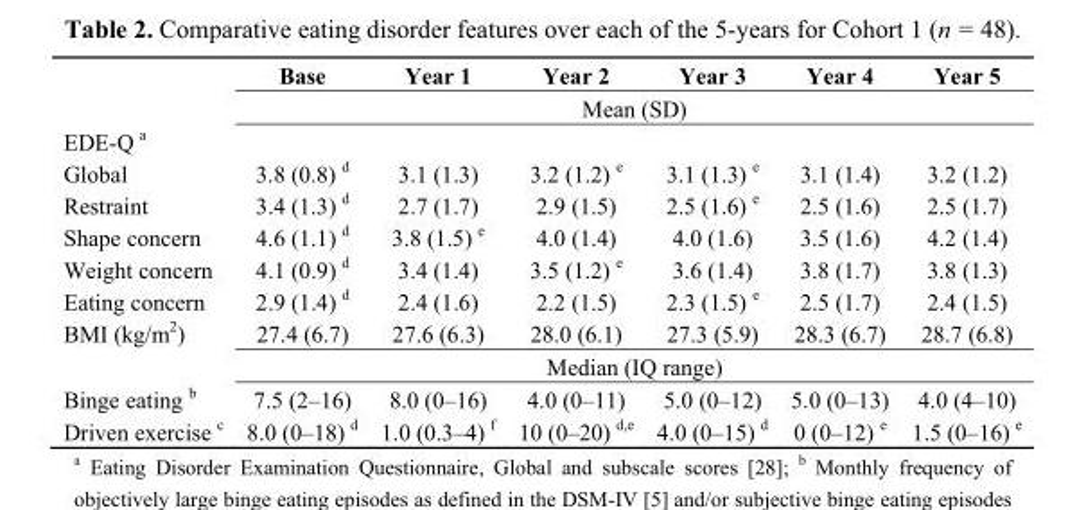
<table><thead><tr><td></td><td>Base</td><td>Year 1</td><td>Year 2</td><td>Year 3</td><td>Year 4</td><td>Year 5</td></tr></thead><tbody><tr><td></td><td colspan="6">Mean (SD)</td></tr><tr><td colspan="7">EDE-Q <sup>a</sup></td></tr><tr><td>Global</td><td>3.8 (0.8) <sup>d</sup></td><td>3.1 (1.3)</td><td>3.2 (1.2) <sup>e</sup></td><td>3.1 (1.3) <sup>e</sup></td><td>3.1 (1.4)</td><td>3.2 (1.2)</td></tr><tr><td>Restraint</td><td>3.4 (1.3) <sup>d</sup></td><td>2.7 (1.7)</td><td>2.9 (1.5)</td><td>2.5 (1.6) <sup>e</sup></td><td>2.5 (1.6)</td><td>2.5 (1.7)</td></tr><tr><td>Shape concern</td><td>4.6 (1.1) <sup>d</sup></td><td>3.8 (1.5) <sup>e</sup></td><td>4.0 (1.4)</td><td>4.0 (1.6)</td><td>3.5 (1.6)</td><td>4.2 (1.4)</td></tr><tr><td>Weight concern</td><td>4.1 (0.9) <sup>d</sup></td><td>3.4 (1.4)</td><td>3.5 (1.2) <sup>e</sup></td><td>3.6 (1.4)</td><td>3.8 (1.7)</td><td>3.8 (1.3)</td></tr><tr><td>Eating concern</td><td>2.9 (1.4) <sup>d</sup></td><td>2.4 (1.6)</td><td>2.2 (1.5)</td><td>2.3 (1.5) <sup>e</sup></td><td>2.5 (1.7)</td><td>2.4 (1.5)</td></tr><tr><td rowspan="2">BMI (kg/m<sup>2</sup>)</td><td>27.4 (6.7)</td><td>27.6 (6.3)</td><td>28.0 (6.1)</td><td>27.3 (5.9)</td><td>28.3 (6.7)</td><td>28.7 (6.8)</td></tr><tr><td colspan="6">Median (IQ range)</td></tr><tr><td>Binge eating <sup>b</sup></td><td>7.5 (2–16)</td><td>8.0 (0–16)</td><td>4.0 (0–11)</td><td>5.0 (0–12)</td><td>5.0 (0–13)</td><td>4.0 (4–10)</td></tr><tr><td>Driven exercise <sup>c</sup></td><td>8.0 (0–18) <sup>d</sup></td><td>1.0 (0.3–4) <sup>f</sup></td><td>10 (0–20) <sup>d,e</sup></td><td>4.0 (0–15) <sup>d</sup></td><td>0 (0–12) <sup>e</sup></td><td>1.5 (0–16) <sup>e</sup></td></tr></tbody></table>